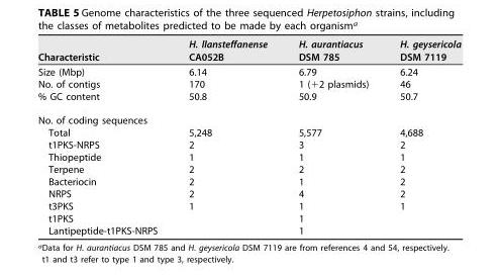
<table><thead><tr><td>Characteristic</td><td>H. llansteffanense CA052B</td><td>H. aurantiacus DSM 785</td><td>H. geysericola DSM 7119</td></tr></thead><tbody><tr><td>Size (Mbp)</td><td>6.14</td><td>6.79</td><td>6.24</td></tr><tr><td>No. of contigs</td><td>170</td><td>1 (+2 plasmids)</td><td>46</td></tr><tr><td>% GC content</td><td>50.8</td><td>50.9</td><td>50.7</td></tr><tr><td colspan="4">No. of coding sequences</td></tr><tr><td>Total</td><td>5,248</td><td>5,577</td><td>4,688</td></tr><tr><td>t1PKS-NRPS</td><td>2</td><td>3</td><td>2</td></tr><tr><td>Thiopeptide</td><td>1</td><td>1</td><td>1</td></tr><tr><td>Terpene</td><td>2</td><td>2</td><td>2</td></tr><tr><td>Bacteriocin</td><td>2</td><td>1</td><td>2</td></tr><tr><td>NRPS</td><td>2</td><td>4</td><td>2</td></tr><tr><td>t3PKS</td><td>1</td><td>1</td><td>1</td></tr><tr><td>t1PKS</td><td></td><td>1</td><td></td></tr><tr><td>Lantipeptide-t1PKS-NRPS</td><td></td><td>1</td><td></td></tr></tbody></table>